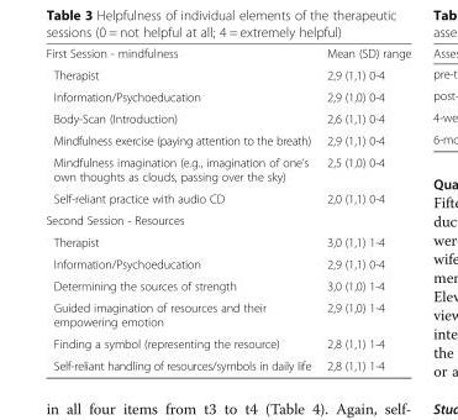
<table><tbody><tr><td>First Session - mindfulness</td><td>Mean (SD) range</td></tr><tr><td>Therapist</td><td>2,9 (1,1) 0-4</td></tr><tr><td>Information/Psychoeducation</td><td>2,9 (1,0) 0-4</td></tr><tr><td>Body-Scan (Introduction)</td><td>2,6 (1,1) 0-4</td></tr><tr><td>Mindfulness exercise (paying attention to the breath)</td><td>2,9 (1,1) 0-4</td></tr><tr><td>Mindfulness imagination (e.g., imagination of one’s own thoughts as clouds, passing over the sky)</td><td>2,5 (1,0) 0-4</td></tr><tr><td>Self-reliant practice with audio CD</td><td>2,0 (1,1) 0-4</td></tr><tr><td colspan="2">Second Session - Resources</td></tr><tr><td>Therapist</td><td>3,0 (1,1) 1-4</td></tr><tr><td>Information/Psychoeducation</td><td>2,9 (1,1) 0-4</td></tr><tr><td>Determining the sources of strength</td><td>3,0 (1,0) 1-4</td></tr><tr><td>Guided imagination of resources and their empowering emotion</td><td>2,9 (1,0) 1-4</td></tr><tr><td>Finding a symbol (representing the resource)</td><td>2,8 (1,1) 1-4</td></tr><tr><td>Self-reliant handling of resources/symbols in daily life</td><td>2,8 (1,1) 1-4</td></tr></tbody></table>